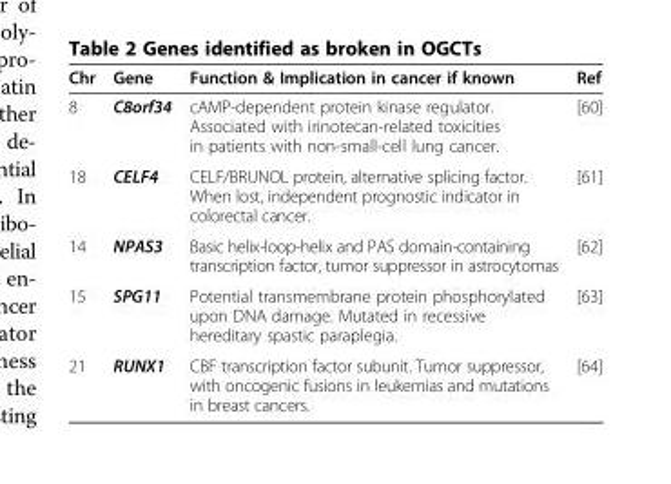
<table><thead><tr><td>Chr</td><td>Gene</td><td>Function &amp; Implication in cancer if known</td><td>Ref</td></tr></thead><tbody><tr><td>8</td><td>C8orf34</td><td>cAMP-dependent protein kinase regulator. Associated with irinotecan-related toxicities in patients with non-small-cell lung cancer.</td><td>[60]</td></tr><tr><td>18</td><td>CELF4</td><td>CELF/BRUNOL protein, alternative splicing factor. When lost, independent prognostic indicator in colorectal cancer.</td><td>[61]</td></tr><tr><td>14</td><td>NPAS3</td><td>Basic helix-loop-helix and PAS domain-containing transcription factor, tumor suppressor in astrocytomas</td><td>[62]</td></tr><tr><td>15</td><td>SPG11</td><td>Potential transmembrane protein phosphorylated upon DNA damage. Mutated in recessive hereditary spastic paraplegia.</td><td>[63]</td></tr><tr><td>21</td><td>RUNX1</td><td>CBF transcription factor subunit. Tumor suppressor, with oncogenic fusions in leukemias and mutations in breast cancers.</td><td>[64]</td></tr></tbody></table>